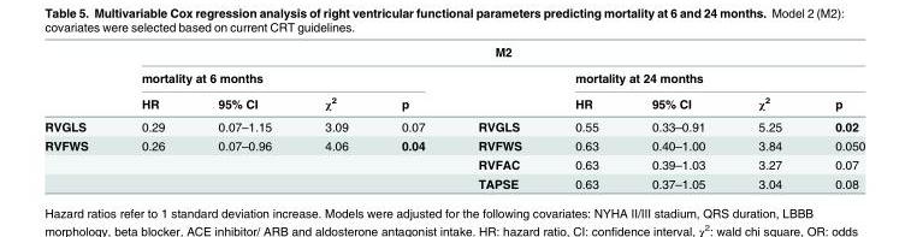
<table><thead><tr><td rowspan="3"></td><td colspan="9">M2</td></tr><tr><td colspan="4">mortality at 6 months</td><td rowspan="2"></td><td colspan="4">mortality at 24 months</td></tr><tr><td>HR</td><td>95% CI</td><td>χ<sup>2</sup></td><td>p</td><td>HR</td><td>95% CI</td><td>χ<sup>2</sup></td><td>p</td></tr></thead><tbody><tr><td>RVGLS</td><td>0.29</td><td>0.07–1.15</td><td>3.09</td><td>0.07</td><td>RVGLS</td><td>0.55</td><td>0.33–0.91</td><td>5.25</td><td>0.02</td></tr><tr><td rowspan="3">RVFWS</td><td>0.26</td><td>0.07–0.96</td><td>4.06</td><td>0.04</td><td>RVFWS</td><td>0.63</td><td>0.40–1.00</td><td>3.84</td><td>0.050</td></tr><tr><td></td><td></td><td></td><td></td><td>RVFAC</td><td>0.63</td><td>0.39–1.03</td><td>3.27</td><td>0.07</td></tr><tr><td></td><td></td><td></td><td></td><td>TAPSE</td><td>0.63</td><td>0.37–1.05</td><td>3.04</td><td>0.08</td></tr></tbody></table>